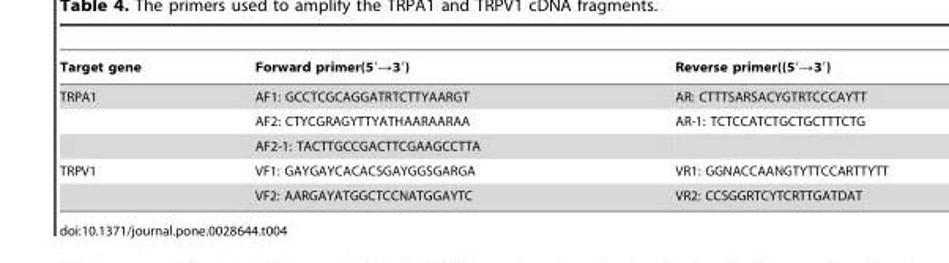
<table><thead><tr><td>Target gene</td><td>Forward primer(5′→3′)</td><td>Reverse primer((5′→3′)</td></tr></thead><tbody><tr><td rowspan="3">TRPA1</td><td>AF1: GCCTCGCAGGATRTCTTYAARGT</td><td>AR: CTTTSARSACYGTRTCCCAYTT</td></tr><tr><td>AF2: CTYCGRAGYTTYATHAARAARAA</td><td>AR-1: TCTCCATCTGCTGCTTTCTG</td></tr><tr><td>AF2-1: TACTTGCCGACTTCGAAGCCTTA</td><td></td></tr><tr><td rowspan="2">TRPV1</td><td>VF1: GAYGAYCACACSGAYGGSGARGA</td><td>VR1: GGNACCAANGTYTTCCARTTYTT</td></tr><tr><td>VF2: AARGAYATGGCTCCNATGGAYTC</td><td>VR2: CCSGGRTCYTCRTTGATDAT</td></tr></tbody></table>